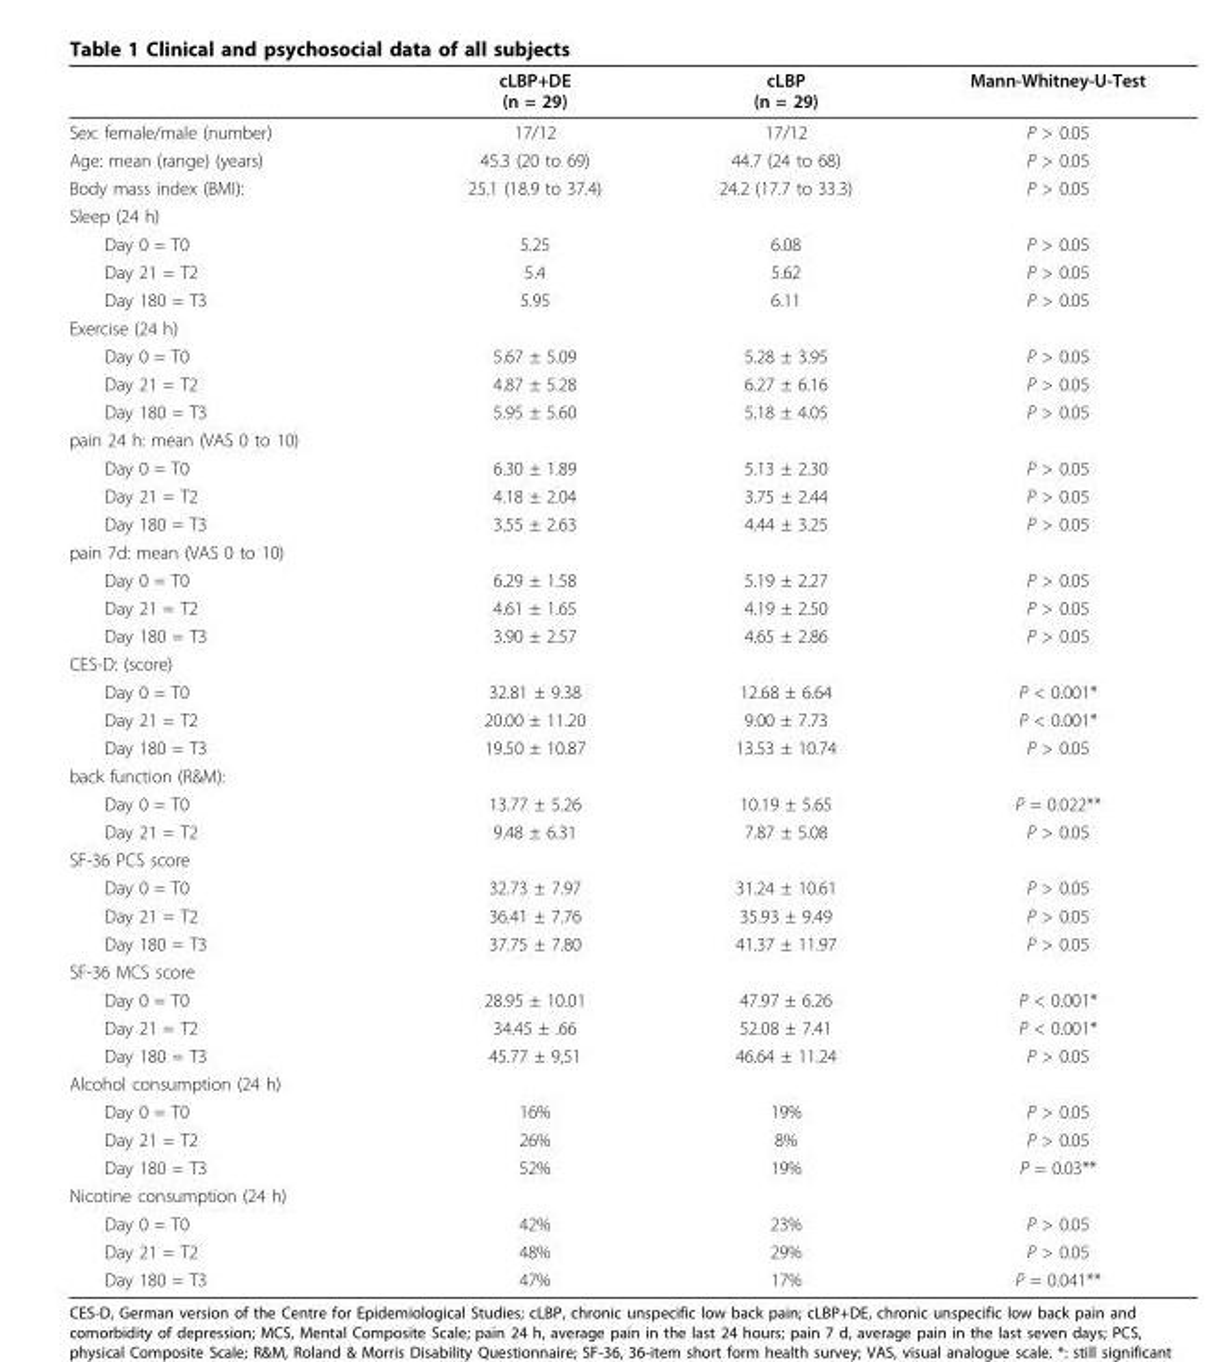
<table><thead><tr><td></td><td>cLBP+DE (n = 29)</td><td>cLBP (n = 29)</td><td>Mann-Whitney-U-Test</td></tr></thead><tbody><tr><td>Sex: female/male (number)</td><td>17/12</td><td>17/12</td><td>P &gt; 0.05</td></tr><tr><td>Age: mean (range) (years)</td><td>45.3 (20 to 69)</td><td>44.7 (24 to 68)</td><td>P &gt; 0.05</td></tr><tr><td>Body mass index (BMI):</td><td>25.1 (18.9 to 37.4)</td><td>24.2 (17.7 to 33.3)</td><td>P &gt; 0.05</td></tr><tr><td colspan="4">Sleep (24 h)</td></tr><tr><td>Day 0 = T0</td><td>5.25</td><td>6.08</td><td>P &gt; 0.05</td></tr><tr><td>Day 21 = T2</td><td>5.4</td><td>5.62</td><td>P &gt; 0.05</td></tr><tr><td>Day 180 = T3</td><td>5.95</td><td>6.11</td><td>P &gt; 0.05</td></tr><tr><td colspan="4">Exercise (24 h)</td></tr><tr><td>Day 0 = T0</td><td>5.67 ± 5.09</td><td>5.28 ± 3.95</td><td>P &gt; 0.05</td></tr><tr><td>Day 21 = T2</td><td>4.87 ± 5.28</td><td>6.27 ± 6.16</td><td>P &gt; 0.05</td></tr><tr><td>Day 180 = T3</td><td>5.95 ± 5.60</td><td>5.18 ± 4.05</td><td>P &gt; 0.05</td></tr><tr><td colspan="4">pain 24 h: mean (VAS 0 to 10)</td></tr><tr><td>Day 0 = T0</td><td>6.30 ± 1.89</td><td>5.13 ± 2.30</td><td>P &gt; 0.05</td></tr><tr><td>Day 21 = T2</td><td>4.18 ± 2.04</td><td>3.75 ± 2.44</td><td>P &gt; 0.05</td></tr><tr><td>Day 180 = T3</td><td>3.55 ± 2.63</td><td>4.44 ± 3.25</td><td>P &gt; 0.05</td></tr><tr><td colspan="4">pain 7d: mean (VAS 0 to 10)</td></tr><tr><td>Day 0 = T0</td><td>6.29 ± 1.58</td><td>5.19 ± 2.27</td><td>P &gt; 0.05</td></tr><tr><td>Day 21 = T2</td><td>4.61 ± 1.65</td><td>4.19 ± 2.50</td><td>P &gt; 0.05</td></tr><tr><td>Day 180 = T3</td><td>3.90 ± 2.57</td><td>4.65 ± 2.86</td><td>P &gt; 0.05</td></tr><tr><td colspan="4">CES-D: (score)</td></tr><tr><td>Day 0 = T0</td><td>32.81 ± 9.38</td><td>12.68 ± 6.64</td><td>P &lt; 0.001*</td></tr><tr><td>Day 21 = T2</td><td>20.00 ± 11.20</td><td>9.00 ± 7.73</td><td>P &lt; 0.001*</td></tr><tr><td>Day 180 = T3</td><td>19.50 ± 10.87</td><td>13.53 ± 10.74</td><td>P &gt; 0.05</td></tr><tr><td colspan="4">back function (R&amp;M):</td></tr><tr><td>Day 0 = T0</td><td>13.77 ± 5.26</td><td>10.19 ± 5.65</td><td>P = 0.022**</td></tr><tr><td>Day 21 = T2</td><td>9.48 ± 6.31</td><td>7.87 ± 5.08</td><td>P &gt; 0.05</td></tr><tr><td colspan="4">SF-36 PCS score</td></tr><tr><td>Day 0 = T0</td><td>32.73 ± 7.97</td><td>31.24 ± 10.61</td><td>P &gt; 0.05</td></tr><tr><td>Day 21 = T2</td><td>36.41 ± 7.76</td><td>35.93 ± 9.49</td><td>P &gt; 0.05</td></tr><tr><td>Day 180 = T3</td><td>37.75 ± 7.80</td><td>41.37 ± 11.97</td><td>P &gt; 0.05</td></tr><tr><td colspan="4">SF-36 MCS score</td></tr><tr><td>Day 0 = T0</td><td>28.95 ± 10.01</td><td>47.97 ± 6.26</td><td>P &lt; 0.001*</td></tr><tr><td>Day 21 = T2</td><td>34.45 ± .66</td><td>52.08 ± 7.41</td><td>P &lt; 0.001*</td></tr><tr><td>Day 180 = T3</td><td>45.77 ± 9,51</td><td>46.64 ± 11.24</td><td>P &gt; 0.05</td></tr><tr><td colspan="4">Alcohol consumption (24 h)</td></tr><tr><td>Day 0 = T0</td><td>16%</td><td>19%</td><td>P &gt; 0.05</td></tr><tr><td>Day 21 = T2</td><td>26%</td><td>8%</td><td>P &gt; 0.05</td></tr><tr><td>Day 180 = T3</td><td>52%</td><td>19%</td><td>P = 0.03**</td></tr><tr><td colspan="4">Nicotine consumption (24 h)</td></tr><tr><td>Day 0 = T0</td><td>42%</td><td>23%</td><td>P &gt; 0.05</td></tr><tr><td>Day 21 = T2</td><td>48%</td><td>29%</td><td>P &gt; 0.05</td></tr><tr><td>Day 180 = T3</td><td>47%</td><td>17%</td><td>P = 0.041**</td></tr></tbody></table>